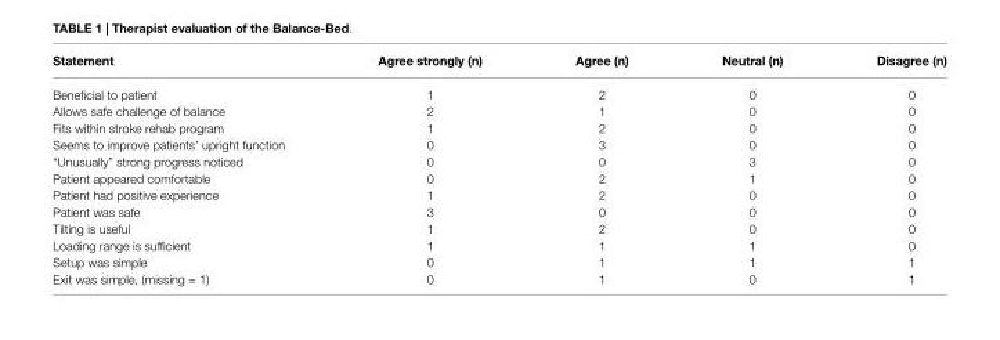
<table><thead><tr><td>Statement</td><td>Agree strongly (n)</td><td>Agree (n)</td><td>Neutral (n)</td><td>Disagree (n)</td></tr></thead><tbody><tr><td>Beneficial to patient</td><td>1</td><td>2</td><td>0</td><td>0</td></tr><tr><td>Allows safe challenge of balance</td><td>2</td><td>1</td><td>0</td><td>0</td></tr><tr><td>Fits within stroke rehab program</td><td>1</td><td>2</td><td>0</td><td>0</td></tr><tr><td>Seems to improve patients’ upright function</td><td>0</td><td>3</td><td>0</td><td>0</td></tr><tr><td>“Unusually” strong progress noticed</td><td>0</td><td>0</td><td>3</td><td>0</td></tr><tr><td>Patient appeared comfortable</td><td>0</td><td>2</td><td>1</td><td>0</td></tr><tr><td>Patient had positive experience</td><td>1</td><td>2</td><td>0</td><td>0</td></tr><tr><td>Patient was safe</td><td>3</td><td>0</td><td>0</td><td>0</td></tr><tr><td>Tilting is useful</td><td>1</td><td>2</td><td>0</td><td>0</td></tr><tr><td>Loading range is sufficient</td><td>1</td><td>1</td><td>1</td><td>0</td></tr><tr><td>Setup was simple</td><td>0</td><td>1</td><td>1</td><td>1</td></tr><tr><td>Exit was simple, (missing = 1)</td><td>0</td><td>1</td><td>0</td><td>1</td></tr></tbody></table>